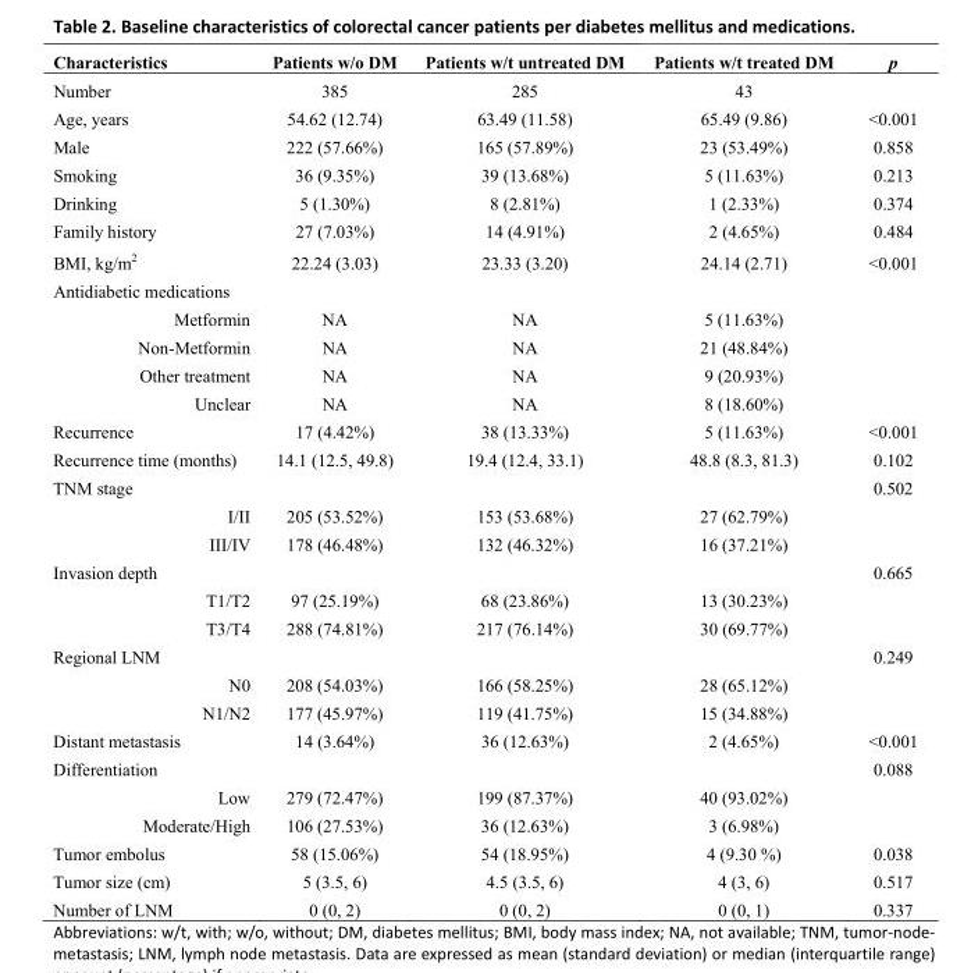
<table><tbody><tr><td>Characteristics</td><td>Patients w/o DM</td><td>Patients w/t untreated DM</td><td>Patients w/t treated DM</td><td>p</td></tr><tr><td>Number</td><td>385</td><td>285</td><td>43</td><td></td></tr><tr><td>Age, years</td><td>54.62 (12.74)</td><td>63.49 (11.58)</td><td>65.49 (9.86)</td><td>&lt;0.001</td></tr><tr><td>Male</td><td>222 (57.66%)</td><td>165 (57.89%)</td><td>23 (53.49%)</td><td>0.858</td></tr><tr><td>Smoking</td><td>36 (9.35%)</td><td>39 (13.68%)</td><td>5 (11.63%)</td><td>0.213</td></tr><tr><td>Drinking</td><td>5 (1.30%)</td><td>8 (2.81%)</td><td>1 (2.33%)</td><td>0.374</td></tr><tr><td>Family history</td><td>27 (7.03%)</td><td>14 (4.91%)</td><td>2 (4.65%)</td><td>0.484</td></tr><tr><td>BMI, kg/m<sup>2</sup></td><td>22.24 (3.03)</td><td>23.33 (3.20)</td><td>24.14 (2.71)</td><td>&lt;0.001</td></tr><tr><td colspan="5">Antidiabetic medications</td></tr><tr><td>Metformin</td><td>NA</td><td>NA</td><td>5 (11.63%)</td><td></td></tr><tr><td>Non-Metformin</td><td>NA</td><td>NA</td><td>21 (48.84%)</td><td></td></tr><tr><td>Other treatment</td><td>NA</td><td>NA</td><td>9 (20.93%)</td><td></td></tr><tr><td>Unclear</td><td>NA</td><td>NA</td><td>8 (18.60%)</td><td></td></tr><tr><td>Recurrence</td><td>17 (4.42%)</td><td>38 (13.33%)</td><td>5 (11.63%)</td><td>&lt;0.001</td></tr><tr><td>Recurrence time (months)</td><td>14.1 (12.5, 49.8)</td><td>19.4 (12.4, 33.1)</td><td>48.8 (8.3, 81.3)</td><td>0.102</td></tr><tr><td>TNM stage</td><td></td><td></td><td></td><td>0.502</td></tr><tr><td>I/II</td><td>205 (53.52%)</td><td>153 (53.68%)</td><td>27 (62.79%)</td><td></td></tr><tr><td>III/IV</td><td>178 (46.48%)</td><td>132 (46.32%)</td><td>16 (37.21%)</td><td></td></tr><tr><td>Invasion depth</td><td></td><td></td><td></td><td>0.665</td></tr><tr><td>T1/T2</td><td>97 (25.19%)</td><td>68 (23.86%)</td><td>13 (30.23%)</td><td></td></tr><tr><td>T3/T4</td><td>288 (74.81%)</td><td>217 (76.14%)</td><td>30 (69.77%)</td><td></td></tr><tr><td>Regional LNM</td><td></td><td></td><td></td><td>0.249</td></tr><tr><td>N0</td><td>208 (54.03%)</td><td>166 (58.25%)</td><td>28 (65.12%)</td><td></td></tr><tr><td>N1/N2</td><td>177 (45.97%)</td><td>119 (41.75%)</td><td>15 (34.88%)</td><td></td></tr><tr><td>Distant metastasis</td><td>14 (3.64%)</td><td>36 (12.63%)</td><td>2 (4.65%)</td><td>&lt;0.001</td></tr><tr><td>Differentiation</td><td></td><td></td><td></td><td>0.088</td></tr><tr><td>Low</td><td>279 (72.47%)</td><td>199 (87.37%)</td><td>40 (93.02%)</td><td></td></tr><tr><td>Moderate/High</td><td>106 (27.53%)</td><td>36 (12.63%)</td><td>3 (6.98%)</td><td></td></tr><tr><td>Tumor embolus</td><td>58 (15.06%)</td><td>54 (18.95%)</td><td>4 (9.30 %)</td><td>0.038</td></tr><tr><td>Tumor size (cm)</td><td>5 (3.5, 6)</td><td>4.5 (3.5, 6)</td><td>4 (3, 6)</td><td>0.517</td></tr><tr><td>Number of LNM</td><td>0 (0, 2)</td><td>0 (0, 2)</td><td>0 (0, 1)</td><td>0.337</td></tr></tbody></table>